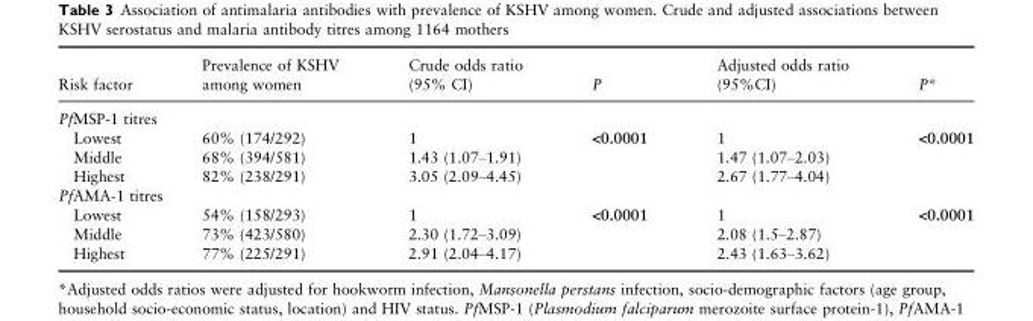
<table><thead><tr><td>Risk factor</td><td>Prevalence of KSHV among women</td><td>Crude odds ratio (95% CI)</td><td>P</td><td>Adjusted odds ratio (95%CI)</td><td>P*</td></tr></thead><tbody><tr><td colspan="6">PfMSP-1 titres</td></tr><tr><td>Lowest</td><td>60% (174/292)</td><td>1</td><td rowspan="3">&lt;0.0001</td><td>1</td><td rowspan="3">&lt;0.0001</td></tr><tr><td>Middle</td><td>68% (394/581)</td><td>1.43 (1.07–1.91)</td><td>1.47 (1.07–2.03)</td></tr><tr><td>Highest</td><td>82% (238/291)</td><td>3.05 (2.09–4.45)</td><td>2.67 (1.77–4.04)</td></tr><tr><td colspan="6">PfAMA-1 titres</td></tr><tr><td>Lowest</td><td>54% (158/293)</td><td>1</td><td rowspan="3">&lt;0.0001</td><td>1</td><td rowspan="3">&lt;0.0001</td></tr><tr><td>Middle</td><td>73% (423/580)</td><td>2.30 (1.72–3.09)</td><td>2.08 (1.5–2.87)</td></tr><tr><td>Highest</td><td>77% (225/291)</td><td>2.91 (2.04–4.17)</td><td>2.43 (1.63–3.62)</td></tr></tbody></table>